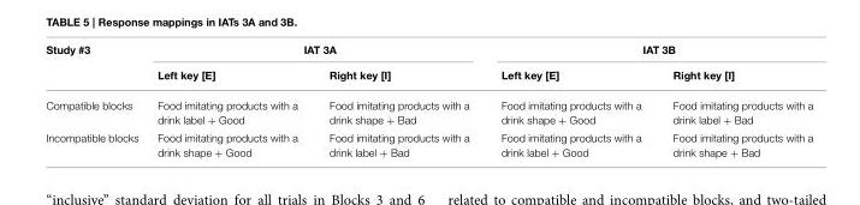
<table><thead><tr><td rowspan="2">Study #3</td><td colspan="2">IAT 3A</td><td colspan="2">IAT 3B</td></tr><tr><td>Left key [E]</td><td>Right key [I]</td><td>Left key [E]</td><td>Right key [I]</td></tr></thead><tbody><tr><td>Compatible blocks</td><td>Food imitating products with a drink label + Good</td><td>Food imitating products with a drink shape + Bad</td><td>Food imitating products with a drink shape + Good</td><td>Food imitating products with a drink label + Bad</td></tr><tr><td>Incompatible blocks</td><td>Food imitating products with a drink shape + Good</td><td>Food imitating products with a drink label + Bad</td><td>Food imitating products with a drink label + Good</td><td>Food imitating products with a drink shape + Bad</td></tr></tbody></table>